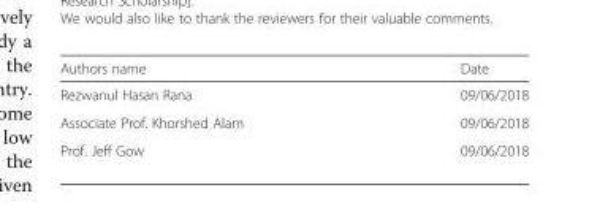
<table><thead><tr><td>Authors name</td><td>Date</td></tr></thead><tbody><tr><td>Rezwanul Hasan Rana</td><td>09/06/2018</td></tr><tr><td>Associate Prof. Khorshed Alam</td><td>09/06/2018</td></tr><tr><td>Prof. Jeff Gow</td><td>09/06/2018</td></tr></tbody></table>